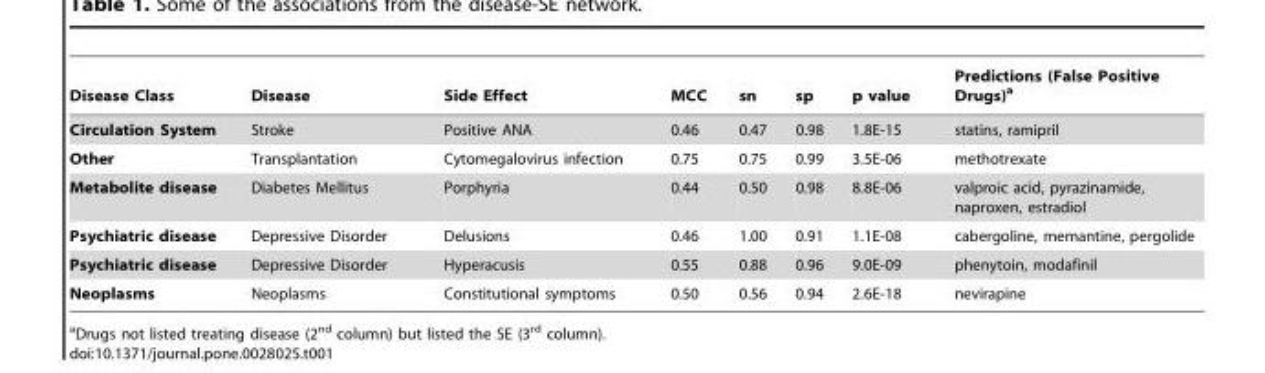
<table><thead><tr><td>Disease Class</td><td>Disease</td><td>Side Effect</td><td>MCC</td><td>sn</td><td>sp</td><td>p value</td><td>Predictions (False Positive Drugs)<sup>a</sup></td></tr></thead><tbody><tr><td>Circulation System</td><td>Stroke</td><td>Positive ANA</td><td>0.46</td><td>0.47</td><td>0.98</td><td>1.8E-15</td><td>statins, ramipril</td></tr><tr><td>Other</td><td>Transplantation</td><td>Cytomegalovirus infection</td><td>0.75</td><td>0.75</td><td>0.99</td><td>3.5E-06</td><td>methotrexate</td></tr><tr><td>Metabolite disease</td><td>Diabetes Mellitus</td><td>Porphyria</td><td>0.44</td><td>0.50</td><td>0.98</td><td>8.8E-06</td><td>valproic acid, pyrazinamide, naproxen, estradiol</td></tr><tr><td>Psychiatric disease</td><td>Depressive Disorder</td><td>Delusions</td><td>0.46</td><td>1.00</td><td>0.91</td><td>1.1E-08</td><td>cabergoline, memantine, pergolide</td></tr><tr><td>Psychiatric disease</td><td>Depressive Disorder</td><td>Hyperacusis</td><td>0.55</td><td>0.88</td><td>0.96</td><td>9.0E-09</td><td>phenytoin, modafinil</td></tr><tr><td>Neoplasms</td><td>Neoplasms</td><td>Constitutional symptoms</td><td>0.50</td><td>0.56</td><td>0.94</td><td>2.6E-18</td><td>nevirapine</td></tr></tbody></table>